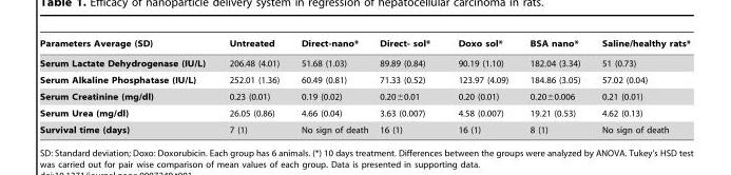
<table><thead><tr><td>Parameters Average (SD)</td><td>Untreated</td><td>Direct-nano*</td><td>Direct- sol*</td><td>Doxo sol*</td><td>BSA nano*</td><td>Saline/healthy rats*</td></tr></thead><tbody><tr><td>Serum Lactate Dehydrogenase (IU/L)</td><td>206.48 (4.01)</td><td>51.68 (1.03)</td><td>89.89 (0.84)</td><td>90.19 (1.10)</td><td>182.04 (3.34)</td><td>51 (0.73)</td></tr><tr><td>Serum Alkaline Phosphatase (IU/L)</td><td>252.01 (1.36)</td><td>60.49 (0.81)</td><td>71.33 (0.52)</td><td>123.97 (4.09)</td><td>184.86 (3.05)</td><td>57.02 (0.04)</td></tr><tr><td>Serum Creatinine (mg/dl)</td><td>0.23 (0.01)</td><td>0.19 (0.02)</td><td>0.20±0.01</td><td>0.20 (0.01)</td><td>0.20±0.006</td><td>0.21 (0.01)</td></tr><tr><td>Serum Urea (mg/dl)</td><td>26.05 (0.86)</td><td>4.66 (0.04)</td><td>3.63 (0.007)</td><td>4.58 (0.007)</td><td>19.21 (0.53)</td><td>4.62 (0.13)</td></tr><tr><td>Survival time (days)</td><td>7 (1)</td><td>No sign of death</td><td>16 (1)</td><td>16 (1)</td><td>8 (1)</td><td>No sign of death</td></tr></tbody></table>